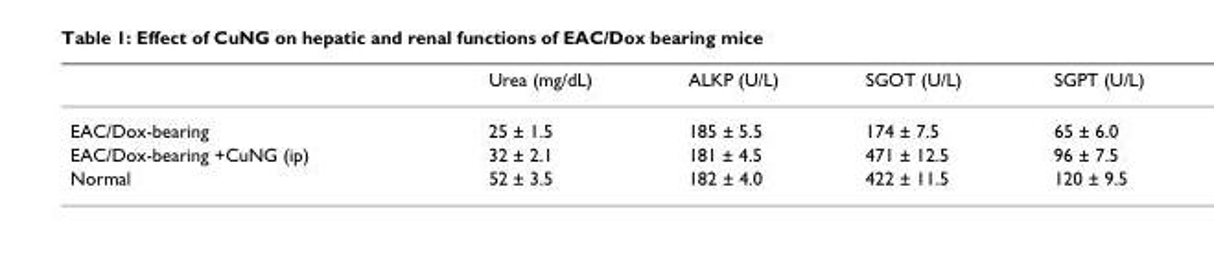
<table><thead><tr><td></td><td>Urea (mg/dL)</td><td>ALKP (U/L)</td><td>SGOT (U/L)</td><td>SGPT (U/L)</td></tr></thead><tbody><tr><td>EAC/Dox-bearing</td><td>25 ± 1.5</td><td>185 ± 5.5</td><td>174 ± 7.5</td><td>65 ± 6.0</td></tr><tr><td>EAC/Dox-bearing +CuNG (ip)</td><td>32 ± 2.1</td><td>181 ± 4.5</td><td>471 ± 12.5</td><td>96 ± 7.5</td></tr><tr><td>Normal</td><td>52 ± 3.5</td><td>182 ± 4.0</td><td>422 ± 11.5</td><td>120 ± 9.5</td></tr></tbody></table>